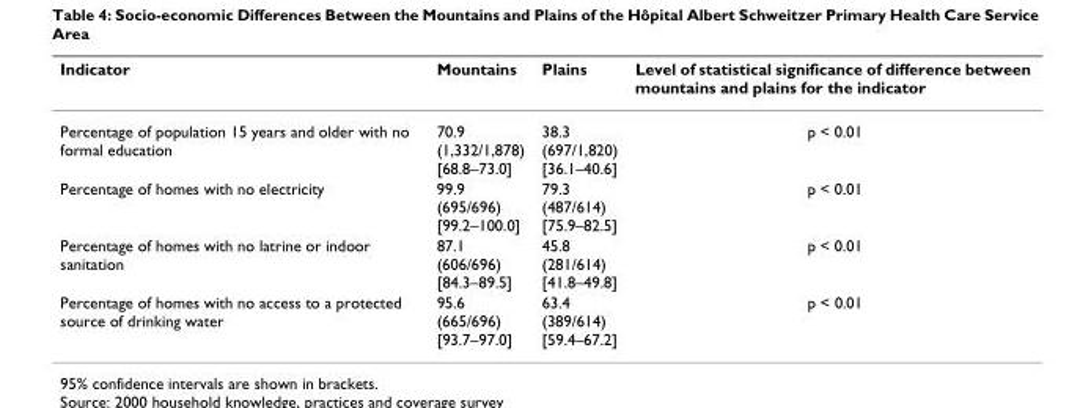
<table><thead><tr><td>Indicator</td><td>Mountains</td><td>Plains</td><td>Level of statistical significance of difference between mountains and plains for the indicator</td></tr></thead><tbody><tr><td>Percentage of population 15 years and older with no formal education</td><td>70.9 (1,332/1,878) [68.8–73.0]</td><td>38.3 (697/1,820) [36.1–40.6]</td><td>p &lt; 0.01</td></tr><tr><td>Percentage of homes with no electricity</td><td>99.9 (695/696) [99.2–100.0]</td><td>79.3 (487/614) [75.9–82.5]</td><td>p &lt; 0.01</td></tr><tr><td>Percentage of homes with no latrine or indoor sanitation</td><td>87.1 (606/696) [84.3–89.5]</td><td>45.8 (281/614) [41.8–49.8]</td><td>p &lt; 0.01</td></tr><tr><td>Percentage of homes with no access to a protected source of drinking water</td><td>95.6 (665/696) [93.7–97.0]</td><td>63.4 (389/614) [59.4–67.2]</td><td>p &lt; 0.01</td></tr></tbody></table>